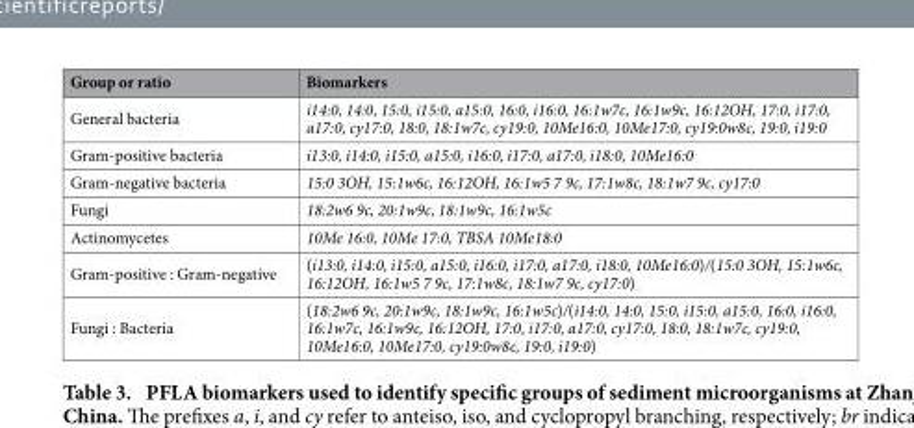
<table><thead><tr><td>Group or ratio</td><td>Biomarkers</td></tr></thead><tbody><tr><td>General bacteria</td><td>i14:0, 14:0, 15:0, i15:0, a15:0, 16:0, i16:0, 16:1w7c, 16:1w9c, 16:12OH, 17:0, i17:0, a17:0, cy17:0, 18:0, 18:1w7c, cy19:0, 10Me16:0, 10Me17:0, cy19:0w8c, 19:0, i19:0</td></tr><tr><td>Gram-positive bacteria</td><td>i13:0, i14:0, i15:0, a15:0, i16:0, i17:0, a17:0, i18:0, 10Me16:0</td></tr><tr><td>Gram-negative bacteria</td><td>15:0 3OH, 15:1w6c, 16:12OH, 16:1w5 7 9c, 17:1w8c, 18:1w7 9c, cy17:0</td></tr><tr><td>Fungi</td><td>18:2w6 9c, 20:1w9c, 18:1w9c, 16:1w5c</td></tr><tr><td>Actinomycetes</td><td>10Me 16:0, 10Me 17:0, TBSA 10Me18:0</td></tr><tr><td>Gram-positive : Gram-negative</td><td>(i13:0, i14:0, i15:0, a15:0, i16:0, i17:0, a17:0, i18:0, 10Me16:0)/(15:0 3OH, 15:1w6c, 16:12OH, 16:1w5 7 9c, 17:1w8c, 18:1w7 9c, cy17:0)</td></tr><tr><td>Fungi : Bacteria</td><td>(18:2w6 9c, 20:1w9c, 18:1w9c, 16:1w5c)/(i14:0, 14:0, 15:0, i15:0, a15:0, 16:0, i16:0, 16:1w7c, 16:1w9c, 16:12OH, 17:0, i17:0, a17:0, cy17:0, 18:0, 18:1w7c, cy19:0, 10Me16:0, 10Me17:0, cy19:0w8c, 19:0, i19:0)</td></tr></tbody></table>